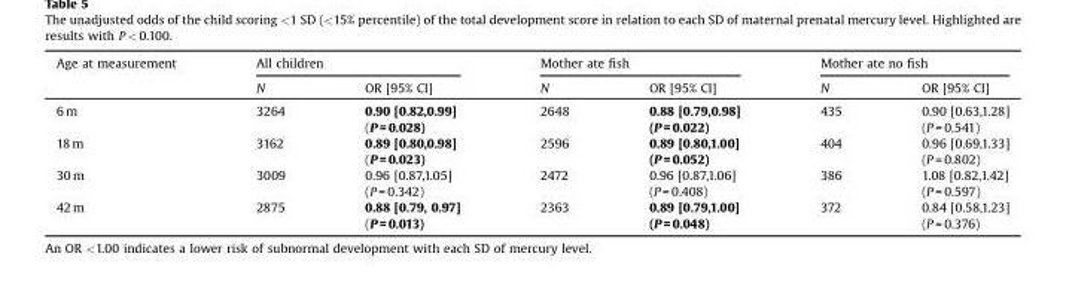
<table><thead><tr><td rowspan="2">Age at measurement</td><td colspan="2">All children</td><td colspan="2">Mother ate fish</td><td colspan="2">Mother ate no fish</td></tr><tr><td>N</td><td>OR [95% CI]</td><td>N</td><td>OR [95% CI]</td><td>N</td><td>OR [95% CI]</td></tr></thead><tbody><tr><td rowspan="2">6 m</td><td>3264</td><td>0.90 [0.82,0.99]</td><td>2648</td><td>0.88 [0.79,0.98]</td><td>435</td><td>0.90 [0.63,1.28]</td></tr><tr><td></td><td>(P = 0.028)</td><td></td><td>(P = 0.022)</td><td></td><td>(P = 0.541)</td></tr><tr><td rowspan="2">18 m</td><td>3162</td><td>0.89 [0.80,0.98]</td><td>2596</td><td>0.89 [0.80,1.00]</td><td>404</td><td>0.96 [0.69,1.33]</td></tr><tr><td></td><td>(P = 0.023)</td><td></td><td>(P = 0.052)</td><td></td><td>(P = 0.802)</td></tr><tr><td rowspan="2">30 m</td><td>3009</td><td>0.96 [0.87,1.05]</td><td>2472</td><td>0.96 [0.87,1.06]</td><td>386</td><td>1.08 [0.82,1.42]</td></tr><tr><td></td><td>(P = 0.342)</td><td></td><td>(P = 0.408)</td><td></td><td>(P = 0.597)</td></tr><tr><td rowspan="2">42 m</td><td>2875</td><td>0.88 [0.79, 0.97]</td><td>2363</td><td>0.89 [0.79,1.00]</td><td>372</td><td>0.84 [0.58,1.23]</td></tr><tr><td></td><td>(P = 0.013)</td><td></td><td>(P = 0.048)</td><td></td><td>(P = 0.376)</td></tr></tbody></table>